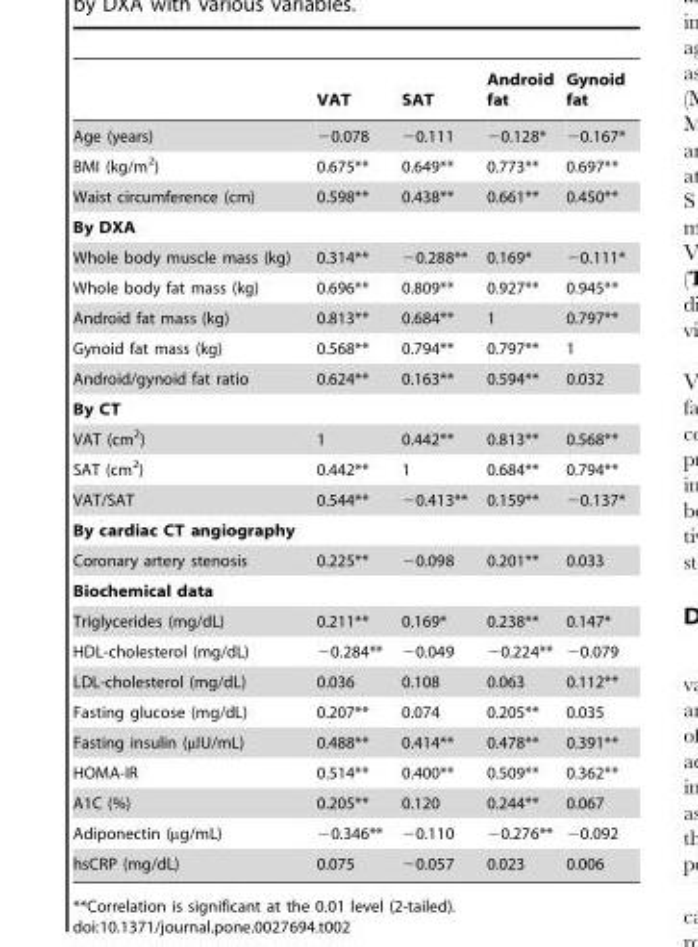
<table><thead><tr><td></td><td>VAT</td><td>SAT</td><td>Android fat</td><td>Gynoid fat</td></tr></thead><tbody><tr><td>Age (years)</td><td>−0.078</td><td>−0.111</td><td>−0.128*</td><td>−0.167*</td></tr><tr><td>BMI (kg/m<sup>2</sup>)</td><td>0.675**</td><td>0.649**</td><td>0.773**</td><td>0.697**</td></tr><tr><td>Waist circumference (cm)</td><td>0.598**</td><td>0.438**</td><td>0.661**</td><td>0.450**</td></tr><tr><td colspan="5">By DXA</td></tr><tr><td>Whole body muscle mass (kg)</td><td>0.314**</td><td>−0.288**</td><td>0.169*</td><td>−0.111*</td></tr><tr><td>Whole body fat mass (kg)</td><td>0.696**</td><td>0.809**</td><td>0.927**</td><td>0.945**</td></tr><tr><td>Android fat mass (kg)</td><td>0.813**</td><td>0.684**</td><td>1</td><td>0.797**</td></tr><tr><td>Gynoid fat mass (kg)</td><td>0.568**</td><td>0.794**</td><td>0.797**</td><td>1</td></tr><tr><td>Android/gynoid fat ratio</td><td>0.624**</td><td>0.163**</td><td>0.594**</td><td>0.032</td></tr><tr><td colspan="5">By CT</td></tr><tr><td>VAT (cm<sup>2</sup>)</td><td>1</td><td>0.442**</td><td>0.813**</td><td>0.568**</td></tr><tr><td>SAT (cm<sup>2</sup>)</td><td>0.442**</td><td>1</td><td>0.684**</td><td>0.794**</td></tr><tr><td>VAT/SAT</td><td>0.544**</td><td>−0.413**</td><td>0.159**</td><td>−0.137*</td></tr><tr><td colspan="5">By cardiac CT angiography</td></tr><tr><td>Coronary artery stenosis</td><td>0.225**</td><td>−0.098</td><td>0.201**</td><td>0.033</td></tr><tr><td colspan="5">Biochemical data</td></tr><tr><td>Triglycerides (mg/dL)</td><td>0.211**</td><td>0.169*</td><td>0.238**</td><td>0.147*</td></tr><tr><td>HDL-cholesterol (mg/dL)</td><td>−0.284**</td><td>−0.049</td><td>−0.224**</td><td>−0.079</td></tr><tr><td>LDL-cholesterol (mg/dL)</td><td>0.036</td><td>0.108</td><td>0.063</td><td>0.112**</td></tr><tr><td>Fasting glucose (mg/dL)</td><td>0.207**</td><td>0.074</td><td>0.205**</td><td>0.035</td></tr><tr><td>Fasting insulin (µIU/mL)</td><td>0.488**</td><td>0.414**</td><td>0.478**</td><td>0.391**</td></tr><tr><td>HOMA-IR</td><td>0.514**</td><td>0.400**</td><td>0.509**</td><td>0.362**</td></tr><tr><td>A1C (%)</td><td>0.205**</td><td>0.120</td><td>0.244**</td><td>0.067</td></tr><tr><td>Adiponectin (µg/mL)</td><td>−0.346**</td><td>−0.110</td><td>−0.276**</td><td>−0.092</td></tr><tr><td>hsCRP (mg/dL)</td><td>0.075</td><td>−0.057</td><td>0.023</td><td>0.006</td></tr></tbody></table>